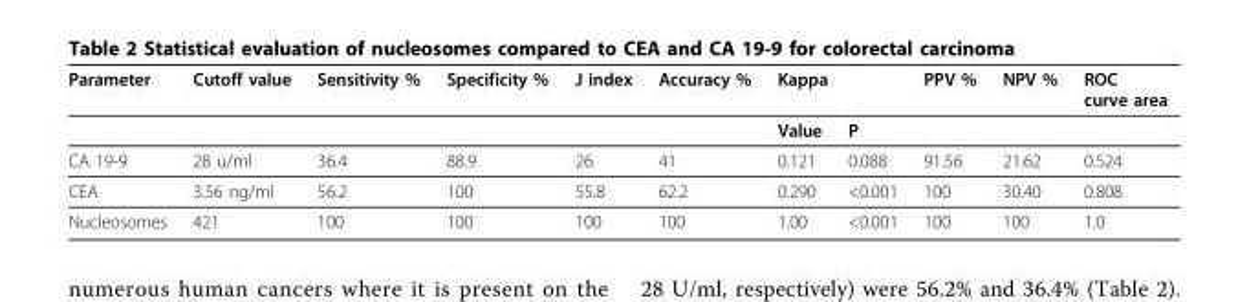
<table><thead><tr><td rowspan="2">Parameter</td><td rowspan="2">Cutoff value</td><td rowspan="2">Sensitivity %</td><td rowspan="2">Specificity %</td><td rowspan="2">J index</td><td rowspan="2">Accuracy %</td><td colspan="2">Kappa</td><td rowspan="2">PPV %</td><td rowspan="2">NPV %</td><td rowspan="2">ROC curve area</td></tr><tr><td>Value</td><td>P</td></tr></thead><tbody><tr><td>CA 19-9</td><td>28 u/ml</td><td>36.4</td><td>88.9</td><td>26</td><td>41</td><td>0.121</td><td>0.088</td><td>91.56</td><td>21.62</td><td>0.524</td></tr><tr><td>CEA</td><td>3.56 ng/ml</td><td>56.2</td><td>100</td><td>55.8</td><td>62.2</td><td>0.290</td><td>&lt;0.001</td><td>100</td><td>30.40</td><td>0.808</td></tr><tr><td>Nucleosomes</td><td>421</td><td>100</td><td>100</td><td>100</td><td>100</td><td>1.00</td><td>&lt;0.001</td><td>100</td><td>100</td><td>1.0</td></tr></tbody></table>